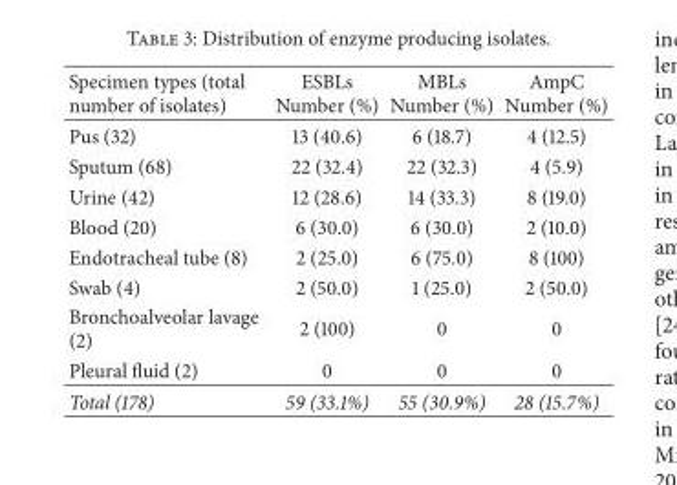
<table><thead><tr><td>Specimen types (total number of isolates)</td><td>ESBLs Number (%)</td><td>MBLs Number (%)</td><td>AmpC Number (%)</td></tr></thead><tbody><tr><td>Pus (32)</td><td>13 (40.6)</td><td>6 (18.7)</td><td>4 (12.5)</td></tr><tr><td>Sputum (68)</td><td>22 (32.4)</td><td>22 (32.3)</td><td>4 (5.9)</td></tr><tr><td>Urine (42)</td><td>12 (28.6)</td><td>14 (33.3)</td><td>8 (19.0)</td></tr><tr><td>Blood (20)</td><td>6 (30.0)</td><td>6 (30.0)</td><td>2 (10.0)</td></tr><tr><td>Endotracheal tube (8)</td><td>2 (25.0)</td><td>6 (75.0)</td><td>8 (100)</td></tr><tr><td>Swab (4)</td><td>2 (50.0)</td><td>1 (25.0)</td><td>2 (50.0)</td></tr><tr><td>Bronchoalveolar lavage (2)</td><td>2 (100)</td><td>0</td><td>0</td></tr><tr><td>Pleural fluid (2)</td><td>0</td><td>0</td><td>0</td></tr><tr><td>Total (178)</td><td>59 (33.1%)</td><td>55 (30.9%)</td><td>28 (15.7%)</td></tr></tbody></table>